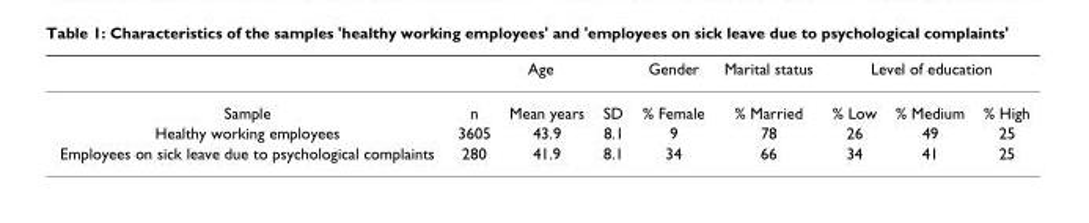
<table><thead><tr><td rowspan="2">Sample</td><td colspan="3">Age</td><td rowspan="2">Gender % Female</td><td rowspan="2">Marital status % Married</td><td colspan="3">Level of education</td></tr><tr><td>n</td><td>Mean years</td><td>SD</td><td>% Low</td><td>% Medium</td><td>% High</td></tr></thead><tbody><tr><td>Healthy working employees</td><td>3605</td><td>43.9</td><td>8.1</td><td>9</td><td>78</td><td>26</td><td>49</td><td>25</td></tr><tr><td>Employees on sick leave due to psychological complaints</td><td>280</td><td>41.9</td><td>8.1</td><td>34</td><td>66</td><td>34</td><td>41</td><td>25</td></tr></tbody></table>